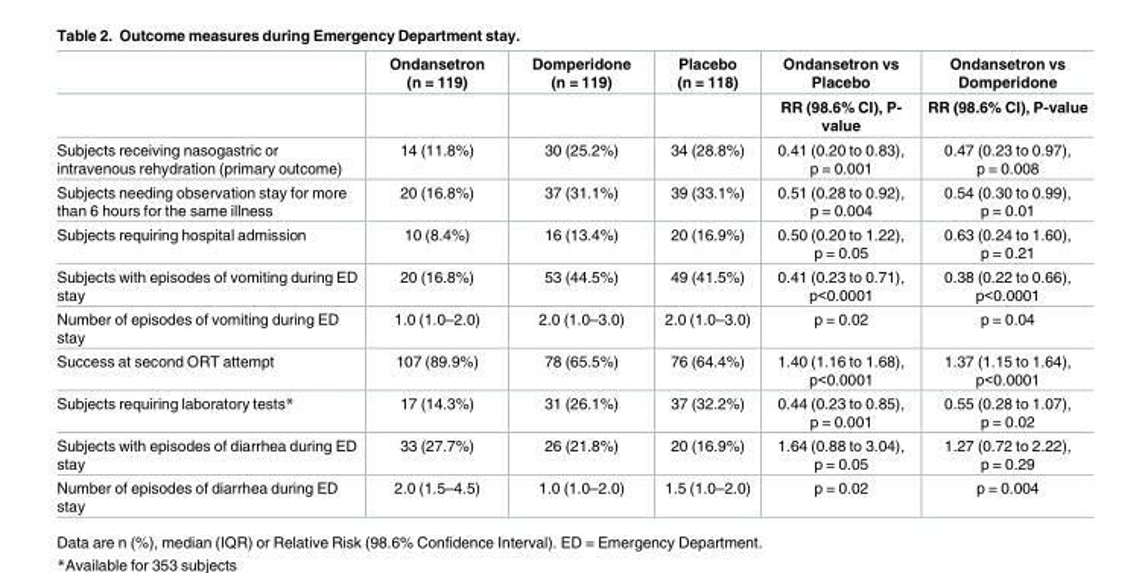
<table><thead><tr><td rowspan="2"></td><td rowspan="2">Ondansetron (n = 119)</td><td rowspan="2">Domperidone (n = 119)</td><td rowspan="2">Placebo (n = 118)</td><td rowspan="2">Ondansetron vs Placebo RR (98.6% CI), P- value</td><td rowspan="2">Ondansetron vs Domperidone RR (98.6% CI), P-value</td></tr><tr></tr></thead><tbody><tr><td>Subjects receiving nasogastric or intravenous rehydration (primary outcome)</td><td>14 (11.8%)</td><td>30 (25.2%)</td><td>34 (28.8%)</td><td>0.41 (0.20 to 0.83), p = 0.001</td><td>0.47 (0.23 to 0.97), p = 0.008</td></tr><tr><td>Subjects needing observation stay for more than 6 hours for the same illness</td><td>20 (16.8%)</td><td>37 (31.1%)</td><td>39 (33.1%)</td><td>0.51 (0.28 to 0.92), p = 0.004</td><td>0.54 (0.30 to 0.99), p = 0.01</td></tr><tr><td>Subjects requiring hospital admission</td><td>10 (8.4%)</td><td>16 (13.4%)</td><td>20 (16.9%)</td><td>0.50 (0.20 to 1.22), p = 0.05</td><td>0.63 (0.24 to 1.60), p = 0.21</td></tr><tr><td>Subjects with episodes of vomiting during ED stay</td><td>20 (16.8%)</td><td>53 (44.5%)</td><td>49 (41.5%)</td><td>0.41 (0.23 to 0.71), p&lt;0.0001</td><td>0.38 (0.22 to 0.66), p&lt;0.0001</td></tr><tr><td>Number of episodes of vomiting during ED stay</td><td>1.0 (1.0–2.0)</td><td>2.0 (1.0–3.0)</td><td>2.0 (1.0–3.0)</td><td>p = 0.02</td><td>p = 0.04</td></tr><tr><td>Success at second ORT attempt</td><td>107 (89.9%)</td><td>78 (65.5%)</td><td>76 (64.4%)</td><td>1.40 (1.16 to 1.68), p&lt;0.0001</td><td>1.37 (1.15 to 1.64), p&lt;0.0001</td></tr><tr><td>Subjects requiring laboratory tests*</td><td>17 (14.3%)</td><td>31 (26.1%)</td><td>37 (32.2%)</td><td>0.44 (0.23 to 0.85), p = 0.001</td><td>0.55 (0.28 to 1.07), p = 0.02</td></tr><tr><td>Subjects with episodes of diarrhea during ED stay</td><td>33 (27.7%)</td><td>26 (21.8%)</td><td>20 (16.9%)</td><td>1.64 (0.88 to 3.04), p = 0.05</td><td>1.27 (0.72 to 2.22), p = 0.29</td></tr><tr><td>Number of episodes of diarrhea during ED stay</td><td>2.0 (1.5–4.5)</td><td>1.0 (1.0–2.0)</td><td>1.5 (1.0–2.0)</td><td>p = 0.02</td><td>p = 0.004</td></tr></tbody></table>